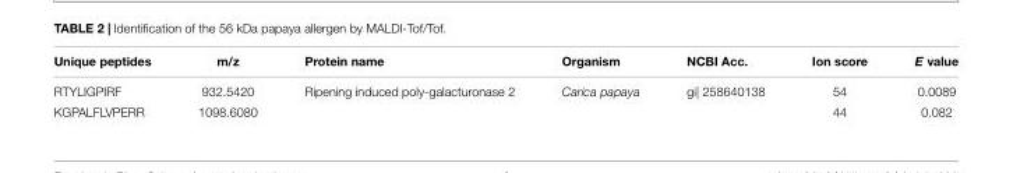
<table><thead><tr><td>Unique peptides</td><td>m/z</td><td>Protein name</td><td>Organism</td><td>NCBI Acc.</td><td>Ion score</td><td>E value</td></tr></thead><tbody><tr><td>RTYLIGPIRF</td><td>932.5420</td><td>Ripening induced poly-galacturonase 2</td><td>Carica papaya</td><td>gi| 258640138</td><td>54</td><td>0.0089</td></tr><tr><td>KGPALFLVPERR</td><td>1098.6080</td><td></td><td></td><td></td><td>44</td><td>0.082</td></tr></tbody></table>